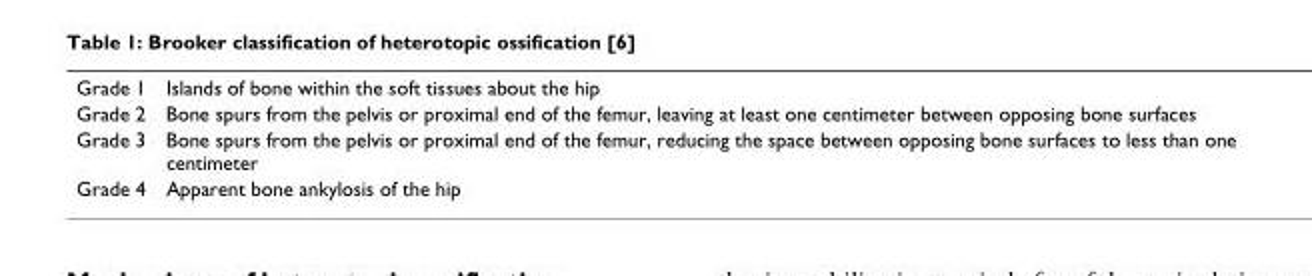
<table><tbody><tr><td>Grade 1</td><td>Islands of bone within the soft tissues about the hip</td></tr><tr><td>Grade 2</td><td>Bone spurs from the pelvis or proximal end of the femur, leaving at least one centimeter between opposing bone surfaces</td></tr><tr><td>Grade 3</td><td>Bone spurs from the pelvis or proximal end of the femur, reducing the space between opposing bone surfaces to less than one centimeter</td></tr><tr><td>Grade 4</td><td>Apparent bone ankylosis of the hip</td></tr></tbody></table>